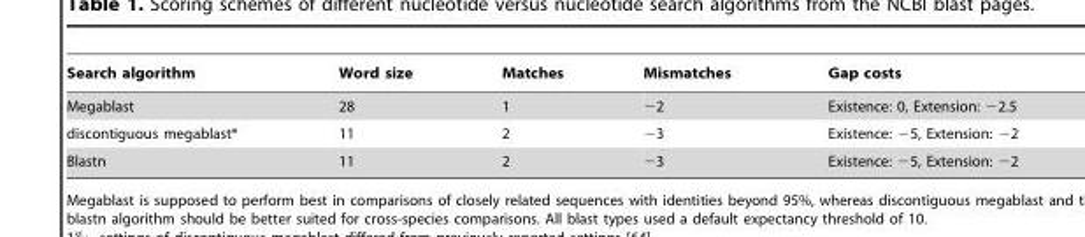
<table><thead><tr><td>Search algorithm</td><td>Word size</td><td>Matches</td><td>Mismatches</td><td>Gap costs</td></tr></thead><tbody><tr><td>Megablast</td><td>28</td><td>1</td><td>−2</td><td>Existence: 0, Extension: −2.5</td></tr><tr><td>discontiguous megablast*</td><td>11</td><td>2</td><td>−3</td><td>Existence: −5, Extension: −2</td></tr><tr><td>Blastn</td><td>11</td><td>2</td><td>−3</td><td>Existence: −5, Extension: −2</td></tr></tbody></table>